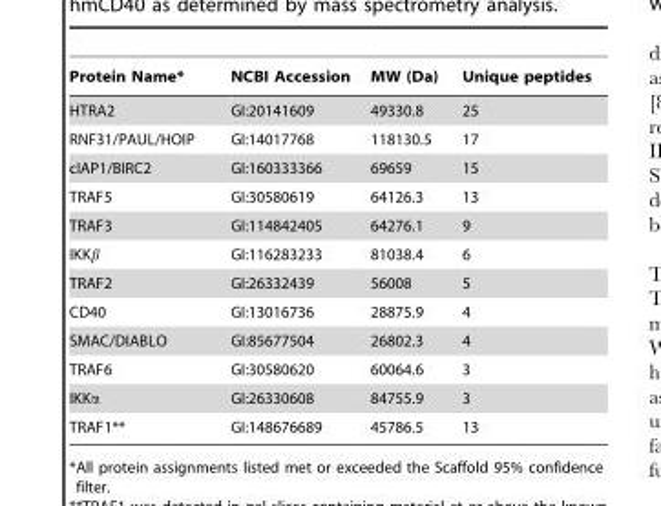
<table><thead><tr><td>Protein Name*</td><td>NCBI Accession</td><td>MW (Da)</td><td>Unique peptides</td></tr></thead><tbody><tr><td>HTRA2</td><td>GI:20141609</td><td>49330.8</td><td>25</td></tr><tr><td>RNF31/PAUL/HOIP</td><td>GI:14017768</td><td>118130.5</td><td>17</td></tr><tr><td>cIAP1/BIRC2</td><td>GI:160333366</td><td>69659</td><td>15</td></tr><tr><td>TRAF5</td><td>GI:30580619</td><td>64126.3</td><td>13</td></tr><tr><td>TRAF3</td><td>GI:114842405</td><td>64276.1</td><td>9</td></tr><tr><td>IKKβ</td><td>GI:116283233</td><td>81038.4</td><td>6</td></tr><tr><td>TRAF2</td><td>GI:26332439</td><td>56008</td><td>5</td></tr><tr><td>CD40</td><td>GI:13016736</td><td>28875.9</td><td>4</td></tr><tr><td>SMAC/DIABLO</td><td>GI:85677504</td><td>26802.3</td><td>4</td></tr><tr><td>TRAF6</td><td>GI:30580620</td><td>60064.6</td><td>3</td></tr><tr><td>IKKα</td><td>GI:26330608</td><td>84755.9</td><td>3</td></tr><tr><td>TRAF1**</td><td>GI:148676689</td><td>45786.5</td><td>13</td></tr></tbody></table>